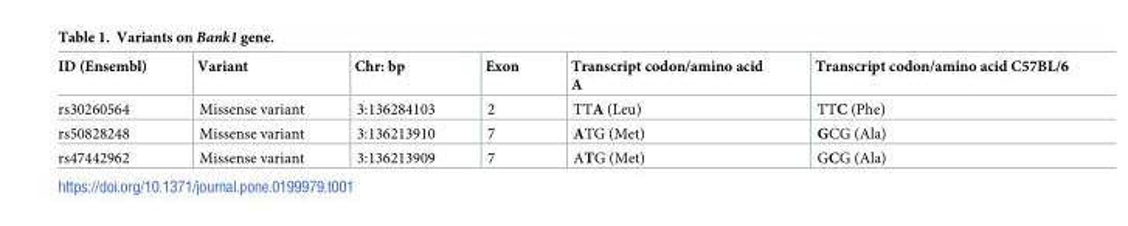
<table><thead><tr><td>ID (Ensembl)</td><td>Variant</td><td>Chr: bp</td><td>Exon</td><td>Transcript codon/amino acid A</td><td>Transcript codon/amino acid C57BL/6</td></tr></thead><tbody><tr><td>rs30260564</td><td>Missense variant</td><td>3:136284103</td><td>2</td><td>TTA (Leu)</td><td>TTC (Phe)</td></tr><tr><td>rs50828248</td><td>Missense variant</td><td>3:136213910</td><td>7</td><td>ATG (Met)</td><td>GCG (Ala)</td></tr><tr><td>rs47442962</td><td>Missense variant</td><td>3:136213909</td><td>7</td><td>ATG (Met)</td><td>GCG (Ala)</td></tr></tbody></table>